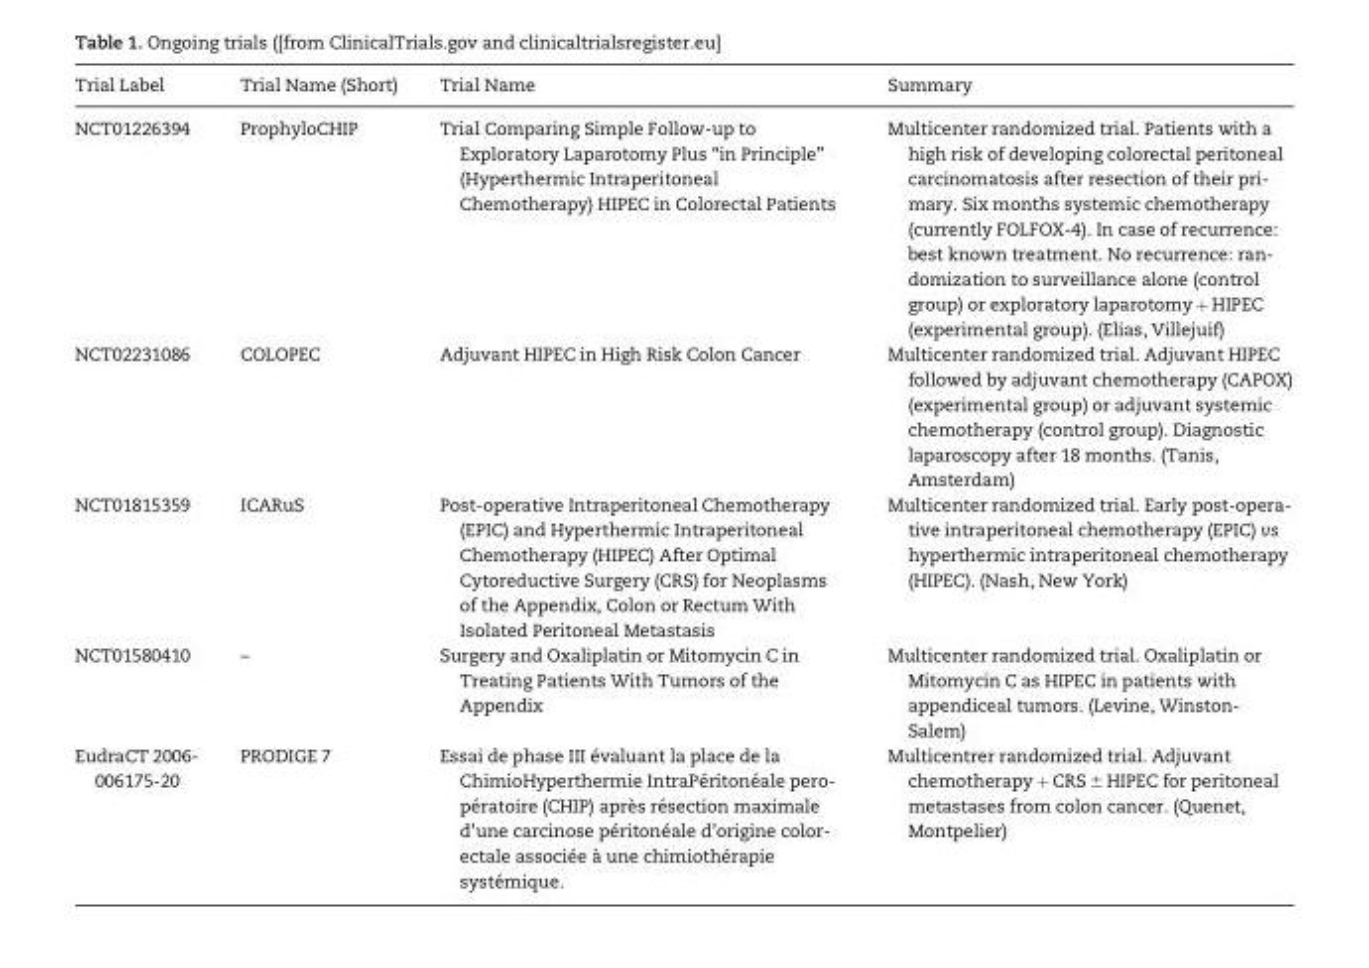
<table><thead><tr><td>Trial Label</td><td>Trial Name (Short)</td><td>Trial Name</td><td>Summary</td></tr></thead><tbody><tr><td>NCT01226394</td><td>ProphyloCHIP</td><td>Trial Comparing Simple Follow-up to Exploratory Laparotomy Plus “in Principle” (Hyperthermic Intraperitoneal Chemotherapy) HIPEC in Colorectal Patients</td><td>Multicenter randomized trial. Patients with a high risk of developing colorectal peritoneal carcinomatosis after resection of their pri- mary. Six months systemic chemotherapy (currently FOLFOX-4). In case of recurrence: best known treatment. No recurrence: ran- domization to surveillance alone (control group) or exploratory laparotomy þ HIPEC (experimental group). (Elias, Villejuif)</td></tr><tr><td>NCT02231086</td><td>COLOPEC</td><td>Adjuvant HIPEC in High Risk Colon Cancer</td><td>Multicenter randomized trial. Adjuvant HIPEC followed by adjuvant chemotherapy (CAPOX) (experimental group) or adjuvant systemic chemotherapy (control group). Diagnostic laparoscopy after 18 months. (Tanis, Amsterdam)</td></tr><tr><td>NCT01815359</td><td>ICARuS</td><td>Post-operative Intraperitoneal Chemotherapy (EPIC) and Hyperthermic Intraperitoneal Chemotherapy (HIPEC) After Optimal Cytoreductive Surgery (CRS) for Neoplasms of the Appendix, Colon or Rectum With Isolated Peritoneal Metastasis</td><td>Multicenter randomized trial. Early post-opera- tive intraperitoneal chemotherapy (EPIC) vs hyperthermic intraperitoneal chemotherapy (HIPEC). (Nash, New York)</td></tr><tr><td>NCT01580410</td><td>–</td><td>Surgery and Oxaliplatin or Mitomycin C in Treating Patients With Tumors of the Appendix</td><td>Multicenter randomized trial. Oxaliplatin or Mitomycin C as HIPEC in patients with appendiceal tumors. (Levine, Winston- Salem)</td></tr><tr><td>EudraCT 2006- 006175-20</td><td>PRODIGE 7</td><td>Essai de phase III e´valuant la place de la ChimioHyperthermie IntraPe´ritone´ale pero- pe´ratoire (CHIP) apre`s re´section maximale d’une carcinose pe´ritone´ale d’origine color- ectale associe´e a` une chimiothe´rapie syste´mique.</td><td>Multicentrer randomized trial. Adjuvant chemotherapy + CRS ± HIPEC for peritoneal metastases from colon cancer. (Quenet, Montpelier)</td></tr></tbody></table>